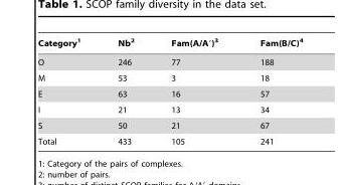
<table><thead><tr><td>Category<sup>1</sup></td><td>Nb<sup>2</sup></td><td>Fam(A/A′)<sup>3</sup></td><td>Fam(B/C)<sup>4</sup></td></tr></thead><tbody><tr><td>O</td><td>246</td><td>77</td><td>188</td></tr><tr><td>M</td><td>53</td><td>3</td><td>18</td></tr><tr><td>E</td><td>63</td><td>16</td><td>57</td></tr><tr><td>I</td><td>21</td><td>13</td><td>34</td></tr><tr><td>S</td><td>50</td><td>21</td><td>67</td></tr><tr><td>Total</td><td>433</td><td>105</td><td>241</td></tr></tbody></table>